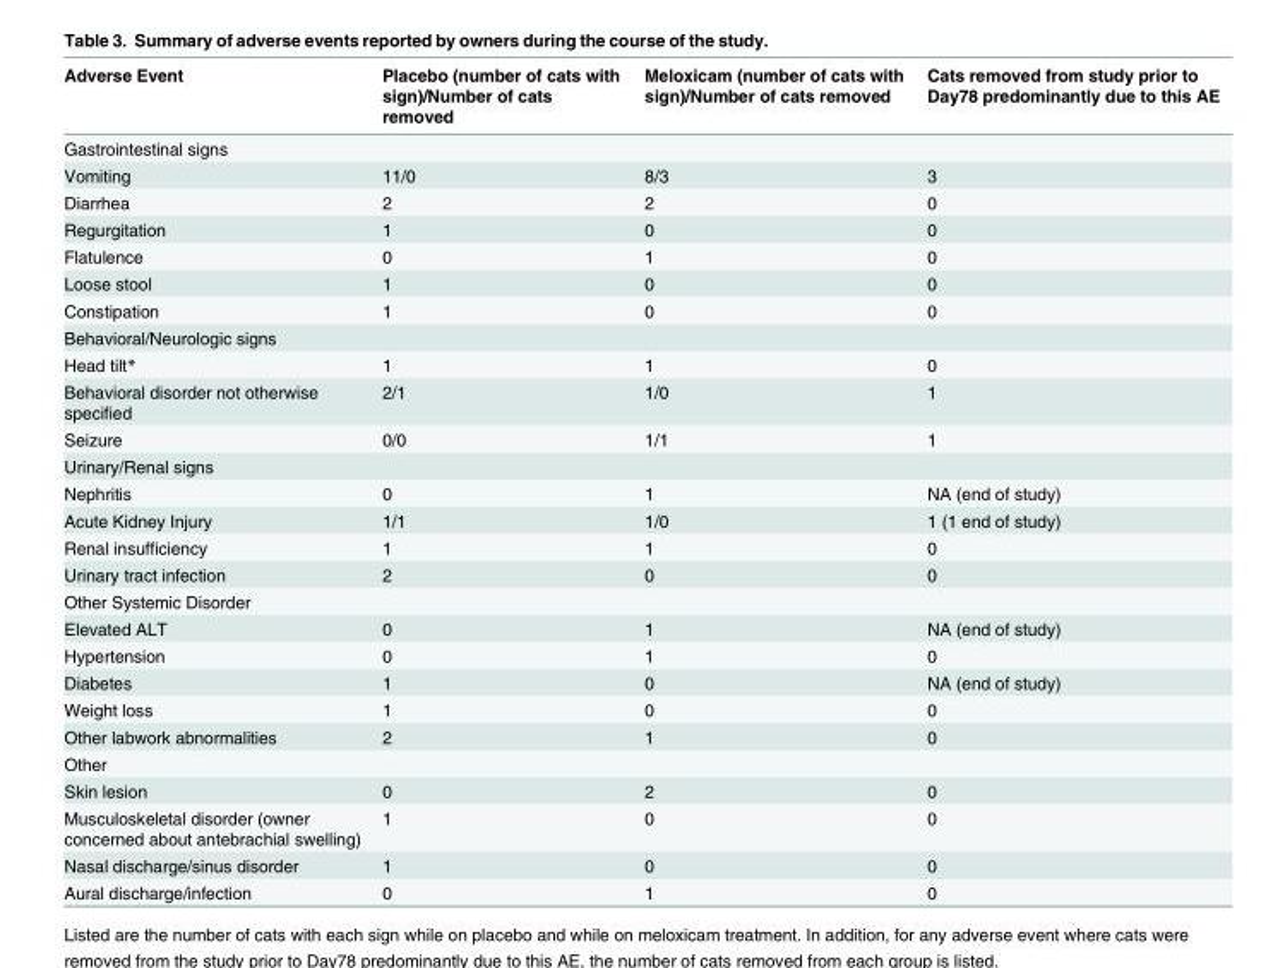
<table><thead><tr><td>Adverse Event</td><td>Placebo (number of cats with sign)/Number of cats removed</td><td>Meloxicam (number of cats with sign)/Number of cats removed</td><td>Cats removed from study prior to Day78 predominantly due to this AE</td></tr></thead><tbody><tr><td colspan="4">Gastrointestinal signs</td></tr><tr><td>Vomiting</td><td>11/0</td><td>8/3</td><td>3</td></tr><tr><td>Diarrhea</td><td>2</td><td>2</td><td>0</td></tr><tr><td>Regurgitation</td><td>1</td><td>0</td><td>0</td></tr><tr><td>Flatulence</td><td>0</td><td>1</td><td>0</td></tr><tr><td>Loose stool</td><td>1</td><td>0</td><td>0</td></tr><tr><td>Constipation</td><td>1</td><td>0</td><td>0</td></tr><tr><td colspan="4">Behavioral/Neurologic signs</td></tr><tr><td>Head tilt*</td><td>1</td><td>1</td><td>0</td></tr><tr><td>Behavioral disorder not otherwise specified</td><td>2/1</td><td>1/0</td><td>1</td></tr><tr><td>Seizure</td><td>0/0</td><td>1/1</td><td>1</td></tr><tr><td colspan="4">Urinary/Renal signs</td></tr><tr><td>Nephritis</td><td>0</td><td>1</td><td>NA (end of study)</td></tr><tr><td>Acute Kidney Injury</td><td>1/1</td><td>1/0</td><td>1 (1 end of study)</td></tr><tr><td>Renal insufficiency</td><td>1</td><td>1</td><td>0</td></tr><tr><td>Urinary tract infection</td><td>2</td><td>0</td><td>0</td></tr><tr><td colspan="4">Other Systemic Disorder</td></tr><tr><td>Elevated ALT</td><td>0</td><td>1</td><td>NA (end of study)</td></tr><tr><td>Hypertension</td><td>0</td><td>1</td><td>0</td></tr><tr><td>Diabetes</td><td>1</td><td>0</td><td>NA (end of study)</td></tr><tr><td>Weight loss</td><td>1</td><td>0</td><td>0</td></tr><tr><td>Other labwork abnormalities</td><td>2</td><td>1</td><td>0</td></tr><tr><td colspan="4">Other</td></tr><tr><td>Skin lesion</td><td>0</td><td>2</td><td>0</td></tr><tr><td>Musculoskeletal disorder (owner concerned about antebrachial swelling)</td><td>1</td><td>0</td><td>0</td></tr><tr><td>Nasal discharge/sinus disorder</td><td>1</td><td>0</td><td>0</td></tr><tr><td>Aural discharge/infection</td><td>0</td><td>1</td><td>0</td></tr></tbody></table>